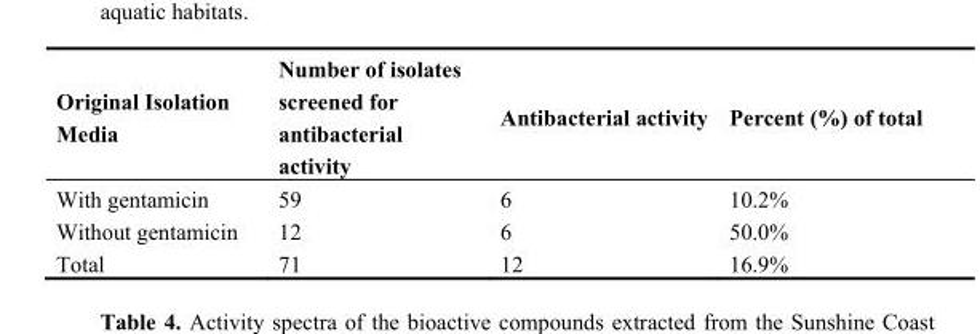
<table><thead><tr><td>Original Isolation Media</td><td>Number of isolates screened for antibacterial activity</td><td>Antibacterial activity</td><td>Percent (%) of total</td></tr></thead><tbody><tr><td>With gentamicin</td><td>59</td><td>6</td><td>10.2%</td></tr><tr><td>Without gentamicin</td><td>12</td><td>6</td><td>50.0%</td></tr><tr><td>Total</td><td>71</td><td>12</td><td>16.9%</td></tr></tbody></table>